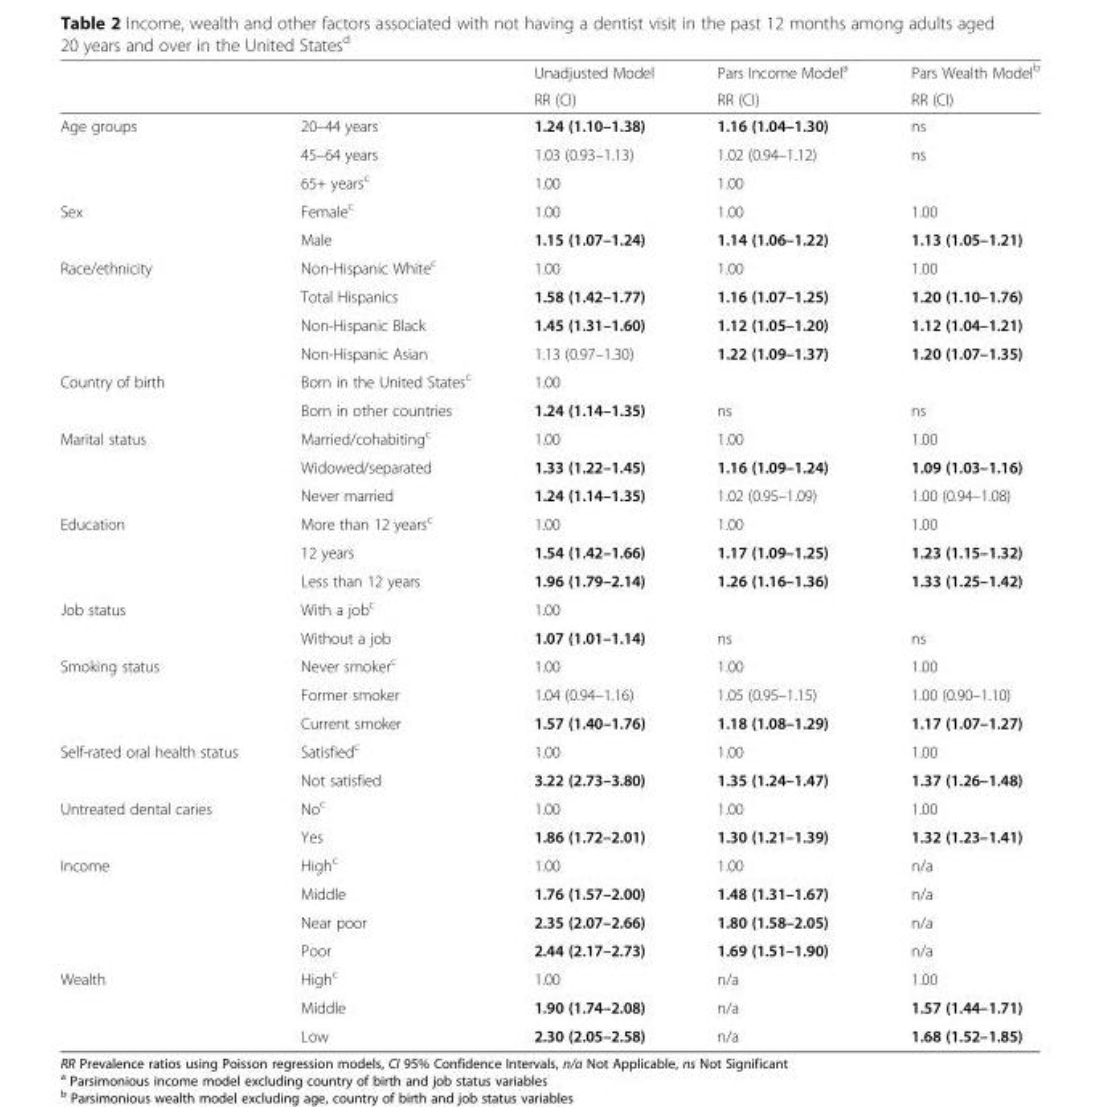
<table><thead><tr><td rowspan="2"></td><td rowspan="2"></td><td rowspan="2">Unadjusted Model RR (CI)</td><td rowspan="2">Pars Income Model<sup>a</sup> RR (CI)</td><td rowspan="2">Pars Wealth Model<sup>b</sup> RR (CI)</td></tr><tr></tr></thead><tbody><tr><td rowspan="3">Age groups</td><td>20–44 years</td><td>1.24 (1.10–1.38)</td><td>1.16 (1.04–1.30)</td><td>ns</td></tr><tr><td>45–64 years</td><td>1.03 (0.93–1.13)</td><td>1.02 (0.94–1.12)</td><td>ns</td></tr><tr><td>65+ years<sup>c</sup></td><td>1.00</td><td>1.00</td><td></td></tr><tr><td rowspan="2">Sex</td><td>Female<sup>c</sup></td><td>1.00</td><td>1.00</td><td>1.00</td></tr><tr><td>Male</td><td>1.15 (1.07–1.24)</td><td>1.14 (1.06–1.22)</td><td>1.13 (1.05–1.21)</td></tr><tr><td rowspan="4">Race/ethnicity</td><td>Non-Hispanic White<sup>c</sup></td><td>1.00</td><td>1.00</td><td>1.00</td></tr><tr><td>Total Hispanics</td><td>1.58 (1.42–1.77)</td><td>1.16 (1.07–1.25)</td><td>1.20 (1.10–1.76)</td></tr><tr><td>Non-Hispanic Black</td><td>1.45 (1.31–1.60)</td><td>1.12 (1.05–1.20)</td><td>1.12 (1.04–1.21)</td></tr><tr><td>Non-Hispanic Asian</td><td>1.13 (0.97–1.30)</td><td>1.22 (1.09–1.37)</td><td>1.20 (1.07–1.35)</td></tr><tr><td rowspan="2">Country of birth</td><td>Born in the United States<sup>c</sup></td><td>1.00</td><td></td><td></td></tr><tr><td>Born in other countries</td><td>1.24 (1.14–1.35)</td><td>ns</td><td>ns</td></tr><tr><td rowspan="3">Marital status</td><td>Married/cohabiting<sup>c</sup></td><td>1.00</td><td>1.00</td><td>1.00</td></tr><tr><td>Widowed/separated</td><td>1.33 (1.22–1.45)</td><td>1.16 (1.09–1.24)</td><td>1.09 (1.03–1.16)</td></tr><tr><td>Never married</td><td>1.24 (1.14–1.35)</td><td>1.02 (0.95–1.09)</td><td>1.00 (0.94–1.08)</td></tr><tr><td rowspan="3">Education</td><td>More than 12 years<sup>c</sup></td><td>1.00</td><td>1.00</td><td>1.00</td></tr><tr><td>12 years</td><td>1.54 (1.42–1.66)</td><td>1.17 (1.09–1.25)</td><td>1.23 (1.15–1.32)</td></tr><tr><td>Less than 12 years</td><td>1.96 (1.79–2.14)</td><td>1.26 (1.16–1.36)</td><td>1.33 (1.25–1.42)</td></tr><tr><td rowspan="2">Job status</td><td>With a job<sup>c</sup></td><td>1.00</td><td></td><td></td></tr><tr><td>Without a job</td><td>1.07 (1.01–1.14)</td><td>ns</td><td>ns</td></tr><tr><td rowspan="3">Smoking status</td><td>Never smoker<sup>c</sup></td><td>1.00</td><td>1.00</td><td>1.00</td></tr><tr><td>Former smoker</td><td>1.04 (0.94–1.16)</td><td>1.05 (0.95–1.15)</td><td>1.00 (0.90–1.10)</td></tr><tr><td>Current smoker</td><td>1.57 (1.40–1.76)</td><td>1.18 (1.08–1.29)</td><td>1.17 (1.07–1.27)</td></tr><tr><td rowspan="2">Self-rated oral health status</td><td>Satisfied<sup>c</sup></td><td>1.00</td><td>1.00</td><td>1.00</td></tr><tr><td>Not satisfied</td><td>3.22 (2.73–3.80)</td><td>1.35 (1.24–1.47)</td><td>1.37 (1.26–1.48)</td></tr><tr><td rowspan="2">Untreated dental caries</td><td>No<sup>c</sup></td><td>1.00</td><td>1.00</td><td>1.00</td></tr><tr><td>Yes</td><td>1.86 (1.72–2.01)</td><td>1.30 (1.21–1.39)</td><td>1.32 (1.23–1.41)</td></tr><tr><td rowspan="4">Income</td><td>High<sup>c</sup></td><td>1.00</td><td>1.00</td><td>n/a</td></tr><tr><td>Middle</td><td>1.76 (1.57–2.00)</td><td>1.48 (1.31–1.67)</td><td>n/a</td></tr><tr><td>Near poor</td><td>2.35 (2.07–2.66)</td><td>1.80 (1.58–2.05)</td><td>n/a</td></tr><tr><td>Poor</td><td>2.44 (2.17–2.73)</td><td>1.69 (1.51–1.90)</td><td>n/a</td></tr><tr><td rowspan="3">Wealth</td><td>High<sup>c</sup></td><td>1.00</td><td>n/a</td><td>1.00</td></tr><tr><td>Middle</td><td>1.90 (1.74–2.08)</td><td>n/a</td><td>1.57 (1.44–1.71)</td></tr><tr><td>Low</td><td>2.30 (2.05–2.58)</td><td>n/a</td><td>1.68 (1.52–1.85)</td></tr></tbody></table>